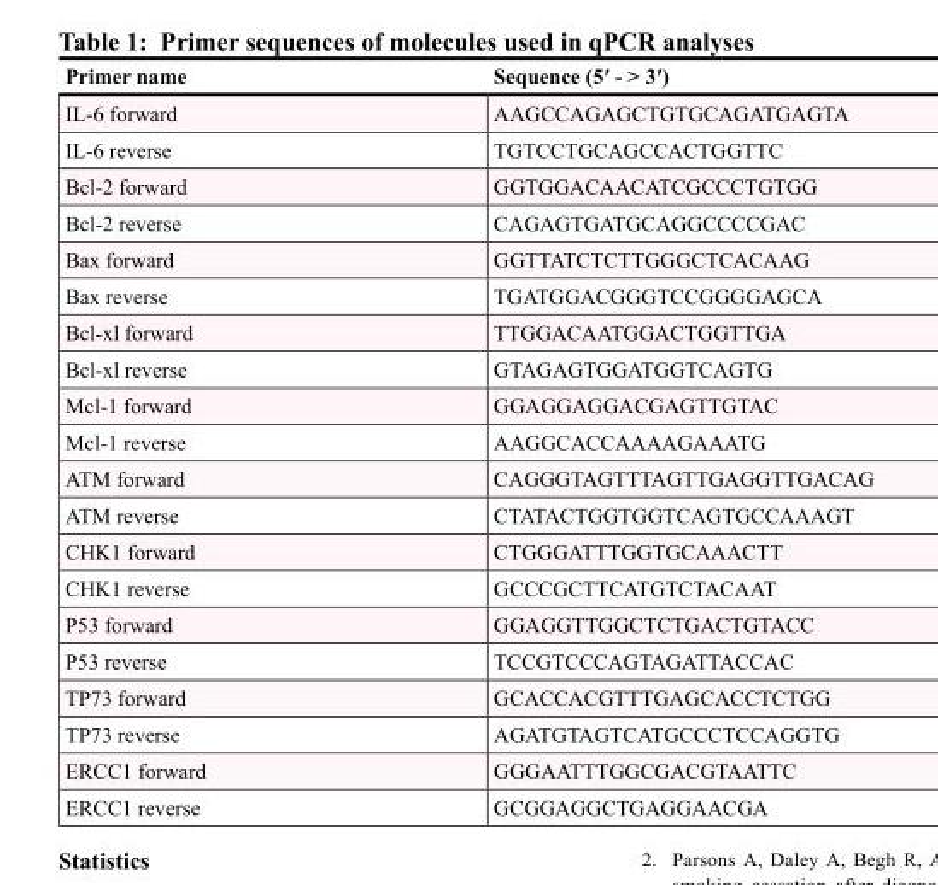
<table><thead><tr><td>Primer name</td><td>Sequence (5′ - &gt; 3′)</td></tr></thead><tbody><tr><td>IL-6 forward</td><td>AAGCCAGAGCTGTGCAGATGAGTA</td></tr><tr><td>IL-6 reverse</td><td>TGTCCTGCAGCCACTGGTTC</td></tr><tr><td>Bcl-2 forward</td><td>GGTGGACAACATCGCCCTGTGG</td></tr><tr><td>Bcl-2 reverse</td><td>CAGAGTGATGCAGGCCCCGAC</td></tr><tr><td>Bax forward</td><td>GGTTATCTCTTGGGCTCACAAG</td></tr><tr><td>Bax reverse</td><td>TGATGGACGGGTCCGGGGAGCA</td></tr><tr><td>Bcl-xl forward</td><td>TTGGACAATGGACTGGTTGA</td></tr><tr><td>Bcl-xl reverse</td><td>GTAGAGTGGATGGTCAGTG</td></tr><tr><td>Mcl-1 forward</td><td>GGAGGAGGACGAGTTGTAC</td></tr><tr><td>Mcl-1 reverse</td><td>AAGGCACCAAAAGAAATG</td></tr><tr><td>ATM forward</td><td>CAGGGTAGTTTAGTTGAGGTTGACAG</td></tr><tr><td>ATM reverse</td><td>CTATACTGGTGGTCAGTGCCAAAGT</td></tr><tr><td>CHK1 forward</td><td>CTGGGATTTGGTGCAAACTT</td></tr><tr><td>CHK1 reverse</td><td>GCCCGCTTCATGTCTACAAT</td></tr><tr><td>P53 forward</td><td>GGAGGTTGGCTCTGACTGTACC</td></tr><tr><td>P53 reverse</td><td>TCCGTCCCAGTAGATTACCAC</td></tr><tr><td>TP73 forward</td><td>GCACCACGTTTGAGCACCTCTGG</td></tr><tr><td>TP73 reverse</td><td>AGATGTAGTCATGCCCTCCAGGTG</td></tr><tr><td>ERCC1 forward</td><td>GGGAATTTGGCGACGTAATTC</td></tr><tr><td>ERCC1 reverse</td><td>GCGGAGGCTGAGGAACGA</td></tr></tbody></table>